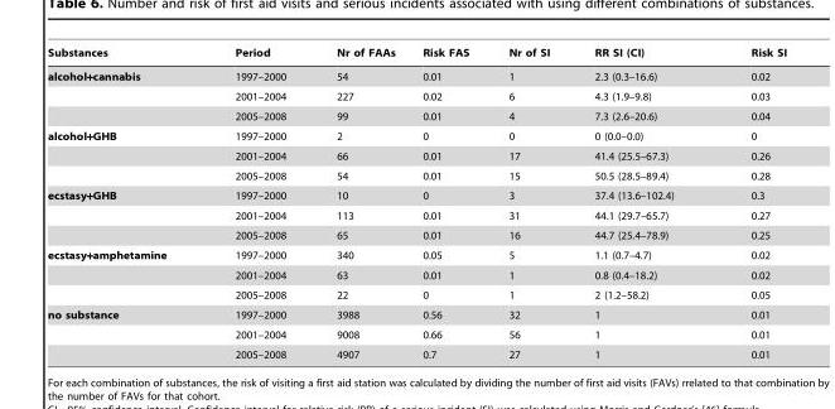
<table><thead><tr><td>Substances</td><td>Period</td><td>Nr of FAAs</td><td>Risk FAS</td><td>Nr of SI</td><td>RR SI (CI)</td><td>Risk SI</td></tr></thead><tbody><tr><td rowspan="3">alcohol+cannabis</td><td>1997–2000</td><td>54</td><td>0.01</td><td>1</td><td>2.3 (0.3–16.6)</td><td>0.02</td></tr><tr><td>2001–2004</td><td>227</td><td>0.02</td><td>6</td><td>4.3 (1.9–9.8)</td><td>0.03</td></tr><tr><td>2005–2008</td><td>99</td><td>0.01</td><td>4</td><td>7.3 (2.6–20.6)</td><td>0.04</td></tr><tr><td rowspan="3">alcohol+GHB</td><td>1997–2000</td><td>2</td><td>0</td><td>0</td><td>0 (0.0–0.0)</td><td>0</td></tr><tr><td>2001–2004</td><td>66</td><td>0.01</td><td>17</td><td>41.4 (25.5–67.3)</td><td>0.26</td></tr><tr><td>2005–2008</td><td>54</td><td>0.01</td><td>15</td><td>50.5 (28.5–89.4)</td><td>0.28</td></tr><tr><td rowspan="3">ecstasy+GHB</td><td>1997–2000</td><td>10</td><td>0</td><td>3</td><td>37.4 (13.6–102.4)</td><td>0.3</td></tr><tr><td>2001–2004</td><td>113</td><td>0.01</td><td>31</td><td>44.1 (29.7–65.7)</td><td>0.27</td></tr><tr><td>2005–2008</td><td>65</td><td>0.01</td><td>16</td><td>44.7 (25.4–78.9)</td><td>0.25</td></tr><tr><td rowspan="3">ecstasy+amphetamine</td><td>1997–2000</td><td>340</td><td>0.05</td><td>5</td><td>1.1 (0.7–4.7)</td><td>0.02</td></tr><tr><td>2001–2004</td><td>63</td><td>0.01</td><td>1</td><td>0.8 (0.4–18.2)</td><td>0.02</td></tr><tr><td>2005–2008</td><td>22</td><td>0</td><td>1</td><td>2 (1.2–58.2)</td><td>0.05</td></tr><tr><td rowspan="3">no substance</td><td>1997–2000</td><td>3988</td><td>0.56</td><td>32</td><td>1</td><td>0.01</td></tr><tr><td>2001–2004</td><td>9008</td><td>0.66</td><td>56</td><td>1</td><td>0.01</td></tr><tr><td>2005–2008</td><td>4907</td><td>0.7</td><td>27</td><td>1</td><td>0.01</td></tr></tbody></table>